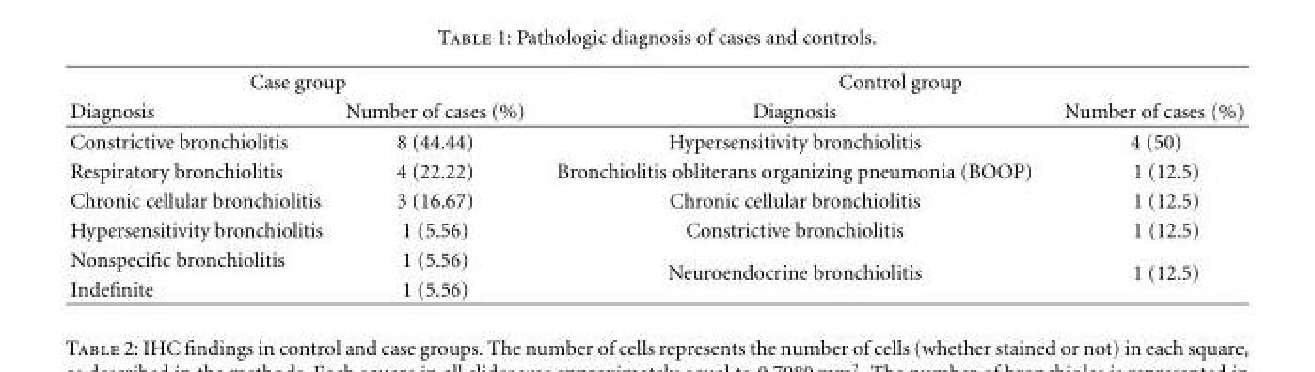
<table><thead><tr><td colspan="2">Case group</td><td colspan="2">Control group</td></tr><tr><td>Diagnosis</td><td>Number of cases (%)</td><td>Diagnosis</td><td>Number of cases (%)</td></tr></thead><tbody><tr><td>Constrictive bronchiolitis</td><td>8 (44.44)</td><td>Hypersensitivity bronchiolitis</td><td>4 (50)</td></tr><tr><td>Respiratory bronchiolitis</td><td>4 (22.22)</td><td>Bronchiolitis obliterans organizing pneumonia (BOOP)</td><td>1 (12.5)</td></tr><tr><td>Chronic cellular bronchiolitis</td><td>3 (16.67)</td><td>Chronic cellular bronchiolitis</td><td>1 (12.5)</td></tr><tr><td>Hypersensitivity bronchiolitis</td><td>1 (5.56)</td><td>Constrictive bronchiolitis</td><td>1 (12.5)</td></tr><tr><td>Nonspecific bronchiolitis</td><td>1 (5.56)</td><td rowspan="2">Neuroendocrine bronchiolitis</td><td rowspan="2">1 (12.5)</td></tr><tr><td>Indefinite</td><td>1 (5.56)</td></tr></tbody></table>